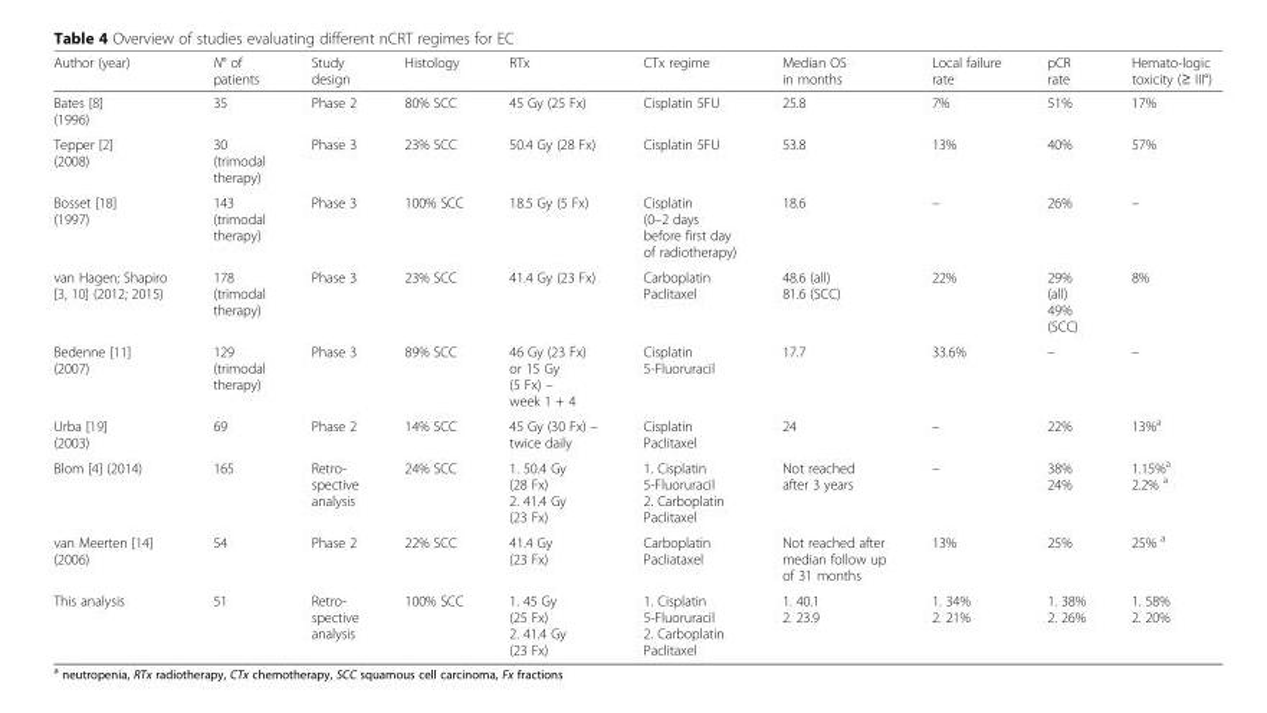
<table><thead><tr><td>Author (year)</td><td>N° of patients</td><td>Study design</td><td>Histology</td><td>RTx</td><td>CTx regime</td><td>Median OS in months</td><td>Local failure rate</td><td>pCR rate</td><td>Hemato-logic toxicity (≥ III°)</td></tr></thead><tbody><tr><td>Bates [8] (1996)</td><td>35</td><td>Phase 2</td><td>80% SCC</td><td>45 Gy (25 Fx)</td><td>Cisplatin 5FU</td><td>25.8</td><td>7%</td><td>51%</td><td>17%</td></tr><tr><td>Tepper [2] (2008)</td><td>30 (trimodal therapy)</td><td>Phase 3</td><td>23% SCC</td><td>50.4 Gy (28 Fx)</td><td>Cisplatin 5FU</td><td>53.8</td><td>13%</td><td>40%</td><td>57%</td></tr><tr><td>Bosset [18] (1997)</td><td>143 (trimodal therapy)</td><td>Phase 3</td><td>100% SCC</td><td>18.5 Gy (5 Fx)</td><td>Cisplatin (0–2 days before first day of radiotherapy)</td><td>18.6</td><td>–</td><td>26%</td><td>–</td></tr><tr><td>van Hagen; Shapiro [3, 10] (2012; 2015)</td><td>178 (trimodal therapy)</td><td>Phase 3</td><td>23% SCC</td><td>41.4 Gy (23 Fx)</td><td>Carboplatin Paclitaxel</td><td>48.6 (all) 81.6 (SCC)</td><td>22%</td><td>29% (all) 49% (SCC)</td><td>8%</td></tr><tr><td>Bedenne [11] (2007)</td><td>129 (trimodal therapy)</td><td>Phase 3</td><td>89% SCC</td><td>46 Gy (23 Fx) or 15 Gy (5 Fx) – week 1 + 4</td><td>Cisplatin 5-Fluoruracil</td><td>17.7</td><td>33.6%</td><td>–</td><td>–</td></tr><tr><td>Urba [19] (2003)</td><td>69</td><td>Phase 2</td><td>14% SCC</td><td>45 Gy (30 Fx) – twice daily</td><td>Cisplatin Paclitaxel</td><td>24</td><td>–</td><td>22%</td><td>13%<sup>a</sup></td></tr><tr><td>Blom [4] (2014)</td><td>165</td><td>Retro- spective analysis</td><td>24% SCC</td><td>1. 50.4 Gy (28 Fx) 2. 41.4 Gy (23 Fx)</td><td>1. Cisplatin 5-Fluoruracil 2. Carboplatin Paclitaxel</td><td>Not reached after 3 years</td><td>–</td><td>38% 24%</td><td>1.15%<sup>a</sup> 2.2% <sup>a</sup></td></tr><tr><td>van Meerten [14] (2006)</td><td>54</td><td>Phase 2</td><td>22% SCC</td><td>41.4 Gy (23 Fx)</td><td>Carboplatin Pacliataxel</td><td>Not reached after median follow up of 31 months</td><td>13%</td><td>25%</td><td>25% <sup>a</sup></td></tr><tr><td>This analysis</td><td>51</td><td>Retro- spective analysis</td><td>100% SCC</td><td>1. 45 Gy (25 Fx) 2. 41.4 Gy (23 Fx)</td><td>1. Cisplatin 5-Fluoruracil 2. Carboplatin Paclitaxel</td><td>1. 40.1 2. 23.9</td><td>1. 34% 2. 21%</td><td>1. 38% 2. 26%</td><td>1. 58% 2. 20%</td></tr></tbody></table>